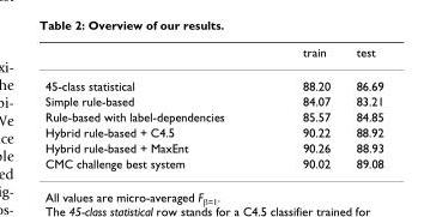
<table><thead><tr><td></td><td>train</td><td>test</td></tr></thead><tbody><tr><td>45-class statistical</td><td>88.20</td><td>86.69</td></tr><tr><td>Simple rule-based</td><td>84.07</td><td>83.21</td></tr><tr><td>Rule-based with label-dependencies</td><td>85.57</td><td>84.85</td></tr><tr><td>Hybrid rule-based + C4.5</td><td>90.22</td><td>88.92</td></tr><tr><td>Hybrid rule-based + MaxEnt</td><td>90.26</td><td>88.93</td></tr><tr><td>CMC challenge best system</td><td>90.02</td><td>89.08</td></tr></tbody></table>